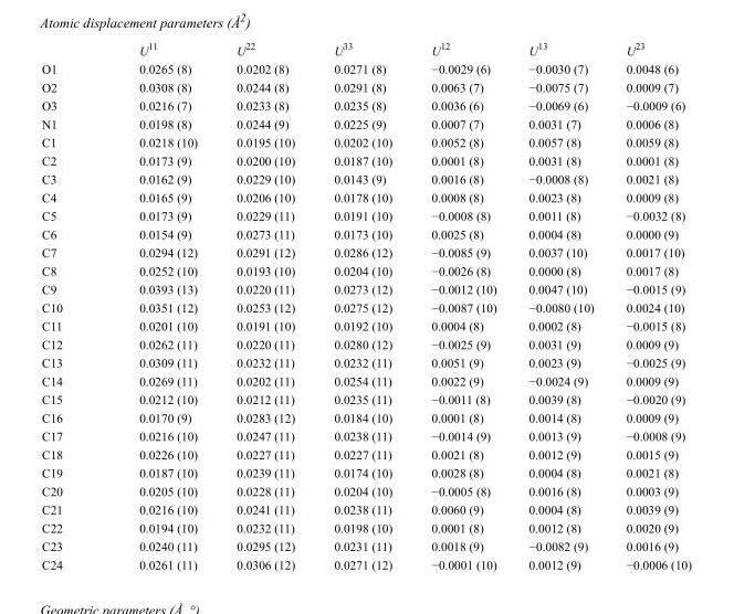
<table><thead><tr><td></td><td>U<sup>11</sup></td><td>U<sup>22</sup></td><td>U<sup>33</sup></td><td>U<sup>12</sup></td><td>U<sup>13</sup></td><td>U<sup>23</sup></td></tr></thead><tbody><tr><td>O1</td><td>0.0265 (8)</td><td>0.0202 (8)</td><td>0.0271 (8)</td><td>−0.0029 (6)</td><td>−0.0030 (7)</td><td>0.0048 (6)</td></tr><tr><td>O2</td><td>0.0308 (8)</td><td>0.0244 (8)</td><td>0.0291 (8)</td><td>0.0063 (7)</td><td>−0.0075 (7)</td><td>0.0009 (7)</td></tr><tr><td>O3</td><td>0.0216 (7)</td><td>0.0233 (8)</td><td>0.0235 (8)</td><td>0.0036 (6)</td><td>−0.0069 (6)</td><td>−0.0009 (6)</td></tr><tr><td>N1</td><td>0.0198 (8)</td><td>0.0244 (9)</td><td>0.0225 (9)</td><td>0.0007 (7)</td><td>0.0031 (7)</td><td>0.0006 (8)</td></tr><tr><td>C1</td><td>0.0218 (10)</td><td>0.0195 (10)</td><td>0.0202 (10)</td><td>0.0052 (8)</td><td>0.0057 (8)</td><td>0.0059 (8)</td></tr><tr><td>C2</td><td>0.0173 (9)</td><td>0.0200 (10)</td><td>0.0187 (10)</td><td>0.0001 (8)</td><td>0.0031 (8)</td><td>0.0001 (8)</td></tr><tr><td>C3</td><td>0.0162 (9)</td><td>0.0229 (10)</td><td>0.0143 (9)</td><td>0.0016 (8)</td><td>−0.0008 (8)</td><td>0.0021 (8)</td></tr><tr><td>C4</td><td>0.0165 (9)</td><td>0.0206 (10)</td><td>0.0178 (10)</td><td>0.0008 (8)</td><td>0.0023 (8)</td><td>0.0009 (8)</td></tr><tr><td>C5</td><td>0.0173 (9)</td><td>0.0229 (11)</td><td>0.0191 (10)</td><td>−0.0008 (8)</td><td>0.0011 (8)</td><td>−0.0032 (8)</td></tr><tr><td>C6</td><td>0.0154 (9)</td><td>0.0273 (11)</td><td>0.0173 (10)</td><td>0.0025 (8)</td><td>0.0004 (8)</td><td>0.0000 (9)</td></tr><tr><td>C7</td><td>0.0294 (12)</td><td>0.0291 (12)</td><td>0.0286 (12)</td><td>−0.0085 (9)</td><td>0.0037 (10)</td><td>0.0017 (10)</td></tr><tr><td>C8</td><td>0.0252 (10)</td><td>0.0193 (10)</td><td>0.0204 (10)</td><td>−0.0026 (8)</td><td>0.0000 (8)</td><td>0.0017 (8)</td></tr><tr><td>C9</td><td>0.0393 (13)</td><td>0.0220 (11)</td><td>0.0273 (12)</td><td>−0.0012 (10)</td><td>0.0047 (10)</td><td>−0.0015 (9)</td></tr><tr><td>C10</td><td>0.0351 (12)</td><td>0.0253 (12)</td><td>0.0275 (12)</td><td>−0.0087 (10)</td><td>−0.0080 (10)</td><td>0.0024 (10)</td></tr><tr><td>C11</td><td>0.0201 (10)</td><td>0.0191 (10)</td><td>0.0192 (10)</td><td>0.0004 (8)</td><td>0.0002 (8)</td><td>−0.0015 (8)</td></tr><tr><td>C12</td><td>0.0262 (11)</td><td>0.0220 (11)</td><td>0.0280 (12)</td><td>−0.0025 (9)</td><td>0.0031 (9)</td><td>0.0009 (9)</td></tr><tr><td>C13</td><td>0.0309 (11)</td><td>0.0232 (11)</td><td>0.0232 (11)</td><td>0.0051 (9)</td><td>0.0023 (9)</td><td>−0.0025 (9)</td></tr><tr><td>C14</td><td>0.0269 (11)</td><td>0.0202 (11)</td><td>0.0254 (11)</td><td>0.0022 (9)</td><td>−0.0024 (9)</td><td>0.0009 (9)</td></tr><tr><td>C15</td><td>0.0212 (10)</td><td>0.0212 (11)</td><td>0.0235 (11)</td><td>−0.0011 (8)</td><td>0.0039 (8)</td><td>−0.0020 (9)</td></tr><tr><td>C16</td><td>0.0170 (9)</td><td>0.0283 (12)</td><td>0.0184 (10)</td><td>0.0001 (8)</td><td>0.0014 (8)</td><td>0.0009 (9)</td></tr><tr><td>C17</td><td>0.0216 (10)</td><td>0.0247 (11)</td><td>0.0238 (11)</td><td>−0.0014 (9)</td><td>0.0013 (9)</td><td>−0.0008 (9)</td></tr><tr><td>C18</td><td>0.0226 (10)</td><td>0.0227 (11)</td><td>0.0227 (11)</td><td>0.0021 (8)</td><td>0.0012 (9)</td><td>0.0015 (9)</td></tr><tr><td>C19</td><td>0.0187 (10)</td><td>0.0239 (11)</td><td>0.0174 (10)</td><td>0.0028 (8)</td><td>0.0004 (8)</td><td>0.0021 (8)</td></tr><tr><td>C20</td><td>0.0205 (10)</td><td>0.0228 (11)</td><td>0.0204 (10)</td><td>−0.0005 (8)</td><td>0.0016 (8)</td><td>0.0003 (9)</td></tr><tr><td>C21</td><td>0.0216 (10)</td><td>0.0241 (11)</td><td>0.0238 (11)</td><td>0.0060 (9)</td><td>0.0004 (8)</td><td>0.0039 (9)</td></tr><tr><td>C22</td><td>0.0194 (10)</td><td>0.0232 (11)</td><td>0.0198 (10)</td><td>0.0001 (8)</td><td>0.0012 (8)</td><td>0.0020 (9)</td></tr><tr><td>C23</td><td>0.0240 (11)</td><td>0.0295 (12)</td><td>0.0231 (11)</td><td>0.0018 (9)</td><td>−0.0082 (9)</td><td>0.0016 (9)</td></tr><tr><td>C24</td><td>0.0261 (11)</td><td>0.0306 (12)</td><td>0.0271 (12)</td><td>−0.0001 (10)</td><td>0.0012 (9)</td><td>−0.0006 (10)</td></tr></tbody></table>